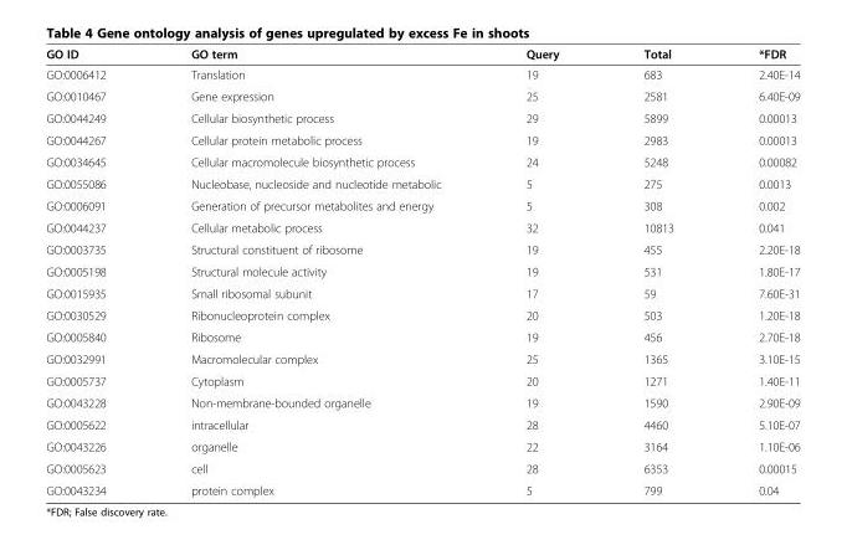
<table><thead><tr><td>GO ID</td><td>GO term</td><td>Query</td><td>Total</td><td>*FDR</td></tr></thead><tbody><tr><td>GO:0006412</td><td>Translation</td><td>19</td><td>683</td><td>2.40E-14</td></tr><tr><td>GO:0010467</td><td>Gene expression</td><td>25</td><td>2581</td><td>6.40E-09</td></tr><tr><td>GO:0044249</td><td>Cellular biosynthetic process</td><td>29</td><td>5899</td><td>0.00013</td></tr><tr><td>GO:0044267</td><td>Cellular protein metabolic process</td><td>19</td><td>2983</td><td>0.00013</td></tr><tr><td>GO:0034645</td><td>Cellular macromolecule biosynthetic process</td><td>24</td><td>5248</td><td>0.00082</td></tr><tr><td>GO:0055086</td><td>Nucleobase, nucleoside and nucleotide metabolic</td><td>5</td><td>275</td><td>0.0013</td></tr><tr><td>GO:0006091</td><td>Generation of precursor metabolites and energy</td><td>5</td><td>308</td><td>0.002</td></tr><tr><td>GO:0044237</td><td>Cellular metabolic process</td><td>32</td><td>10813</td><td>0.041</td></tr><tr><td>GO:0003735</td><td>Structural constituent of ribosome</td><td>19</td><td>455</td><td>2.20E-18</td></tr><tr><td>GO:0005198</td><td>Structural molecule activity</td><td>19</td><td>531</td><td>1.80E-17</td></tr><tr><td>GO:0015935</td><td>Small ribosomal subunit</td><td>17</td><td>59</td><td>7.60E-31</td></tr><tr><td>GO:0030529</td><td>Ribonucleoprotein complex</td><td>20</td><td>503</td><td>1.20E-18</td></tr><tr><td>GO:0005840</td><td>Ribosome</td><td>19</td><td>456</td><td>2.70E-18</td></tr><tr><td>GO:0032991</td><td>Macromolecular complex</td><td>25</td><td>1365</td><td>3.10E-15</td></tr><tr><td>GO:0005737</td><td>Cytoplasm</td><td>20</td><td>1271</td><td>1.40E-11</td></tr><tr><td>GO:0043228</td><td>Non-membrane-bounded organelle</td><td>19</td><td>1590</td><td>2.90E-09</td></tr><tr><td>GO:0005622</td><td>intracellular</td><td>28</td><td>4460</td><td>5.10E-07</td></tr><tr><td>GO:0043226</td><td>organelle</td><td>22</td><td>3164</td><td>1.10E-06</td></tr><tr><td>GO:0005623</td><td>cell</td><td>28</td><td>6353</td><td>0.00015</td></tr><tr><td>GO:0043234</td><td>protein complex</td><td>5</td><td>799</td><td>0.04</td></tr></tbody></table>